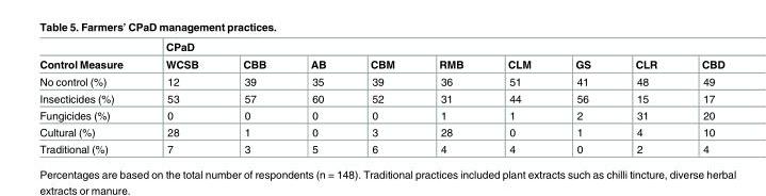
<table><thead><tr><td rowspan="2">Control Measure</td><td colspan="9">CPaD</td></tr><tr><td>WCSB</td><td>CBB</td><td>AB</td><td>CBM</td><td>RMB</td><td>CLM</td><td>GS</td><td>CLR</td><td>CBD</td></tr></thead><tbody><tr><td>No control (%)</td><td>12</td><td>39</td><td>35</td><td>39</td><td>36</td><td>51</td><td>41</td><td>48</td><td>49</td></tr><tr><td>Insecticides (%)</td><td>53</td><td>57</td><td>60</td><td>52</td><td>31</td><td>44</td><td>56</td><td>15</td><td>17</td></tr><tr><td>Fungicides (%)</td><td>0</td><td>0</td><td>0</td><td>0</td><td>1</td><td>1</td><td>2</td><td>31</td><td>20</td></tr><tr><td>Cultural (%)</td><td>28</td><td>1</td><td>0</td><td>3</td><td>28</td><td>0</td><td>1</td><td>4</td><td>10</td></tr><tr><td>Traditional (%)</td><td>7</td><td>3</td><td>5</td><td>6</td><td>4</td><td>4</td><td>0</td><td>2</td><td>4</td></tr></tbody></table>